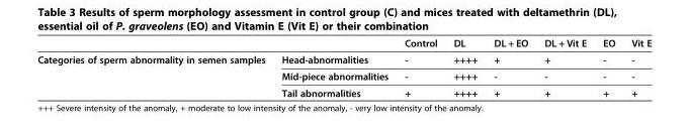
<table><thead><tr><td></td><td></td><td>Control</td><td>DL</td><td>DL + EO</td><td>DL + Vit E</td><td>EO</td><td>Vit E</td></tr></thead><tbody><tr><td rowspan="3">Categories of sperm abnormality in semen samples</td><td>Head-abnormalities</td><td>-</td><td>++++</td><td>+</td><td>+</td><td>-</td><td>-</td></tr><tr><td>Mid-piece abnormalities</td><td>-</td><td>++++</td><td>-</td><td>-</td><td>-</td><td>-</td></tr><tr><td>Tail abnormalities</td><td>+</td><td>++++</td><td>+</td><td>+</td><td>+</td><td>+</td></tr></tbody></table>